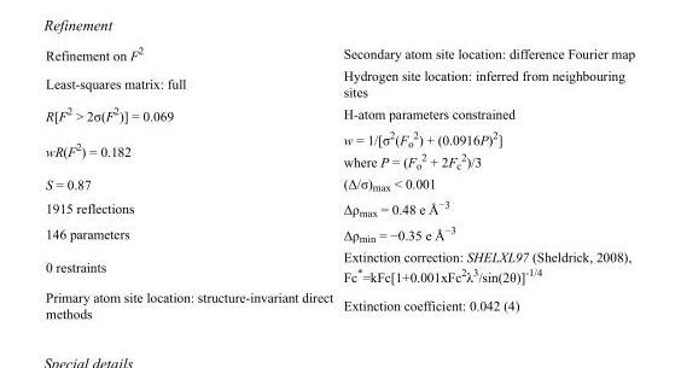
<table><tbody><tr><td>Refinement on F<sup>2</sup></td><td>Secondary atom site location: difference Fourier map</td></tr><tr><td>Least-squares matrix: full</td><td>Hydrogen site location: inferred from neighbouring sites</td></tr><tr><td>R[F<sup>2</sup> &gt; 2σ(F<sup>2</sup>)] = 0.069</td><td>H-atom parameters constrained</td></tr><tr><td>wR(F<sup>2</sup>) = 0.182</td><td>w = 1/[σ<sup>2</sup>(F<sub>o</sub> <sup>2</sup>) + (0.0916P)<sup>2</sup>] where P = (F<sub>o</sub> <sup>2</sup> + 2F<sub>c</sub> <sup>2</sup>)/3</td></tr><tr><td>S = 0.87</td><td>(Δ/σ)<sub>max</sub> &lt; 0.001</td></tr><tr><td>1915 reflections</td><td>Δρ<sub>max</sub> = 0.48 e Å<sup>−3</sup></td></tr><tr><td>146 parameters</td><td>Δρ<sub>min</sub> = −0.35 e Å<sup>−3</sup></td></tr><tr><td>0 restraints</td><td>Extinction correction: SHELXL97 (Sheldrick, 2008), Fc*=kFc[1+0.001xFc<sup>2</sup>λ<sup>3</sup>/sin(2θ)]<sup>-1/4</sup></td></tr><tr><td>Primary atom site location: structure-invariant direct methods</td><td>Extinction coefficient: 0.042 (4)</td></tr></tbody></table>